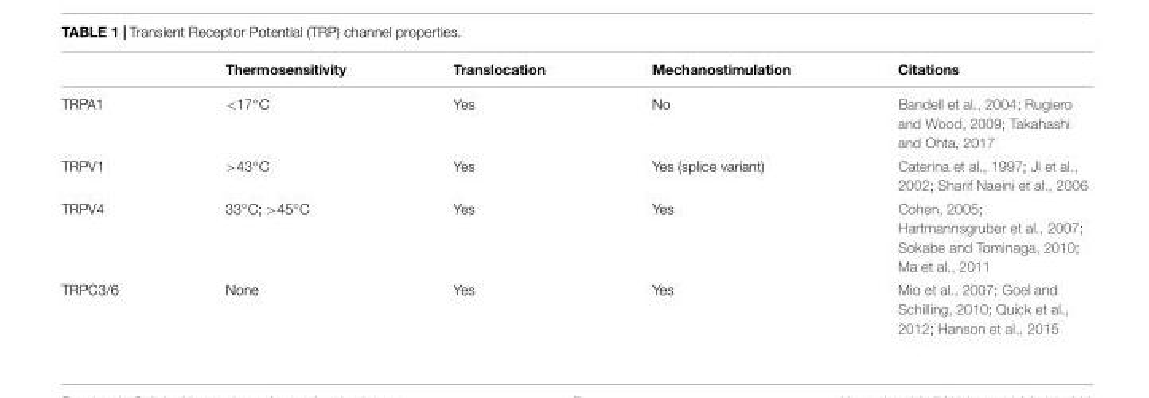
<table><thead><tr><td></td><td>Thermosensitivity</td><td>Translocation</td><td>Mechanostimulation</td><td>Citations</td></tr></thead><tbody><tr><td>TRPA1</td><td>&lt;17◦C</td><td>Yes</td><td>No</td><td>Bandell et al., 2004; Rugiero and Wood, 2009; Takahashi and Ohta, 2017</td></tr><tr><td>TRPV1</td><td>&gt;43◦C</td><td>Yes</td><td>Yes (splice variant)</td><td>Caterina et al., 1997; Ji et al., 2002; Sharif Naeini et al., 2006</td></tr><tr><td>TRPV4</td><td>33◦C; &gt;45◦C</td><td>Yes</td><td>Yes</td><td>Cohen, 2005; Hartmannsgruber et al., 2007; Sokabe and Tominaga, 2010; Ma et al., 2011</td></tr><tr><td>TRPC3/6</td><td>None</td><td>Yes</td><td>Yes</td><td>Mio et al., 2007; Goel and Schilling, 2010; Quick et al., 2012; Hanson et al., 2015</td></tr></tbody></table>